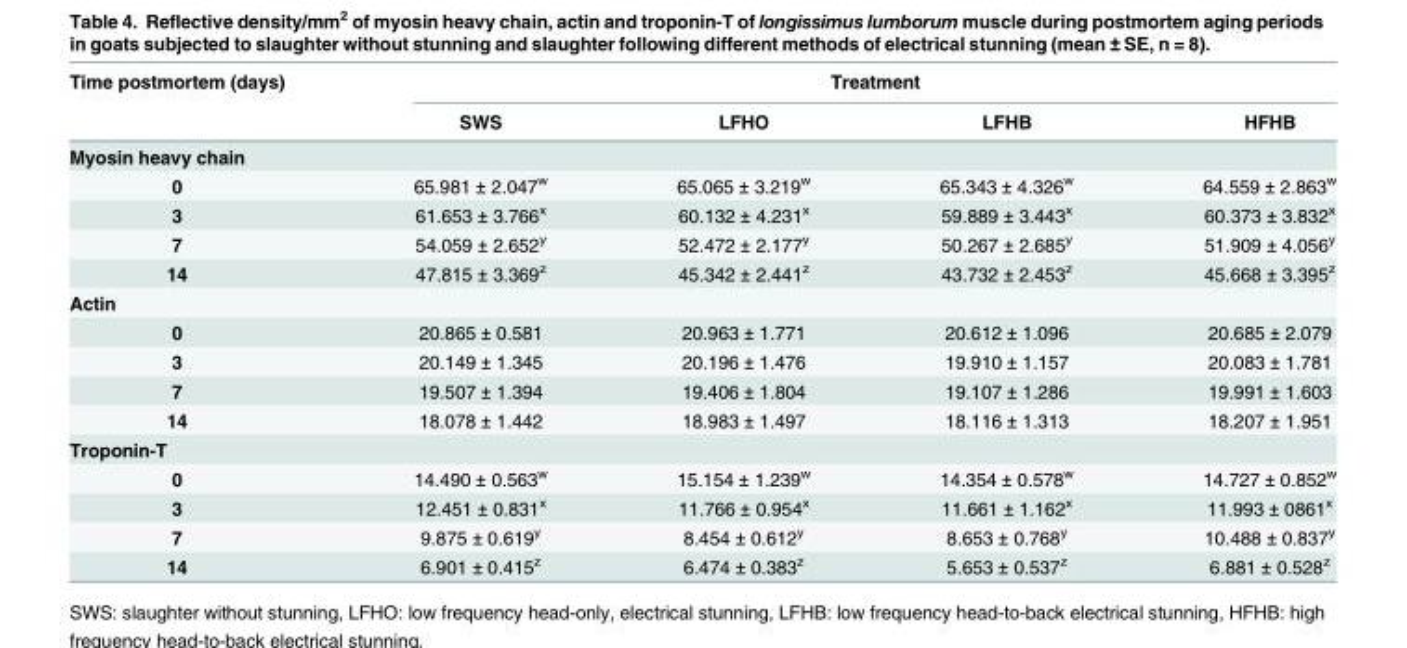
<table><thead><tr><td rowspan="2">Time postmortem (days)</td><td colspan="4">Treatment</td></tr><tr><td>SWS</td><td>LFHO</td><td>LFHB</td><td>HFHB</td></tr></thead><tbody><tr><td colspan="5">Myosin heavy chain</td></tr><tr><td>0</td><td>65.981 ± 2.047<sup>w</sup></td><td>65.065 ± 3.219<sup>w</sup></td><td>65.343 ± 4.326<sup>w</sup></td><td>64.559 ± 2.863<sup>w</sup></td></tr><tr><td>3</td><td>61.653 ± 3.766<sup>x</sup></td><td>60.132 ± 4.231<sup>x</sup></td><td>59.889 ± 3.443<sup>x</sup></td><td>60.373 ± 3.832<sup>x</sup></td></tr><tr><td>7</td><td>54.059 ± 2.652<sup>y</sup></td><td>52.472 ± 2.177<sup>y</sup></td><td>50.267 ± 2.685<sup>y</sup></td><td>51.909 ± 4.056<sup>y</sup></td></tr><tr><td>14</td><td>47.815 ± 3.369<sup>z</sup></td><td>45.342 ± 2.441<sup>z</sup></td><td>43.732 ± 2.453<sup>z</sup></td><td>45.668 ± 3.395<sup>z</sup></td></tr><tr><td colspan="5">Actin</td></tr><tr><td>0</td><td>20.865 ± 0.581</td><td>20.963 ± 1.771</td><td>20.612 ± 1.096</td><td>20.685 ± 2.079</td></tr><tr><td>3</td><td>20.149 ± 1.345</td><td>20.196 ± 1.476</td><td>19.910 ± 1.157</td><td>20.083 ± 1.781</td></tr><tr><td>7</td><td>19.507 ± 1.394</td><td>19.406 ± 1.804</td><td>19.107 ± 1.286</td><td>19.991 ± 1.603</td></tr><tr><td>14</td><td>18.078 ± 1.442</td><td>18.983 ± 1.497</td><td>18.116 ± 1.313</td><td>18.207 ± 1.951</td></tr><tr><td colspan="5">Troponin-T</td></tr><tr><td>0</td><td>14.490 ± 0.563<sup>w</sup></td><td>15.154 ± 1.239<sup>w</sup></td><td>14.354 ± 0.578<sup>w</sup></td><td>14.727 ± 0.852<sup>w</sup></td></tr><tr><td>3</td><td>12.451 ± 0.831<sup>x</sup></td><td>11.766 ± 0.954<sup>x</sup></td><td>11.661 ± 1.162<sup>x</sup></td><td>11.993 ± 0861<sup>x</sup></td></tr><tr><td>7</td><td>9.875 ± 0.619<sup>y</sup></td><td>8.454 ± 0.612<sup>y</sup></td><td>8.653 ± 0.768<sup>y</sup></td><td>10.488 ± 0.837<sup>y</sup></td></tr><tr><td>14</td><td>6.901 ± 0.415<sup>z</sup></td><td>6.474 ± 0.383<sup>z</sup></td><td>5.653 ± 0.537<sup>z</sup></td><td>6.881 ± 0.528<sup>z</sup></td></tr></tbody></table>